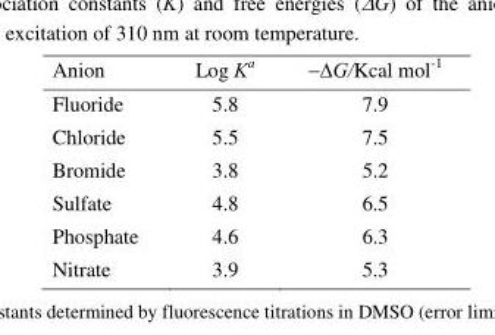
<table><thead><tr><td>Anion</td><td>Log K<sup>a</sup></td><td>−ΔG/Kcal mol<sup>-1</sup></td></tr></thead><tbody><tr><td>Fluoride</td><td>5.8</td><td>7.9</td></tr><tr><td>Chloride</td><td>5.5</td><td>7.5</td></tr><tr><td>Bromide</td><td>3.8</td><td>5.2</td></tr><tr><td>Sulfate</td><td>4.8</td><td>6.5</td></tr><tr><td>Phosphate</td><td>4.6</td><td>6.3</td></tr><tr><td>Nitrate</td><td>3.9</td><td>5.3</td></tr></tbody></table>